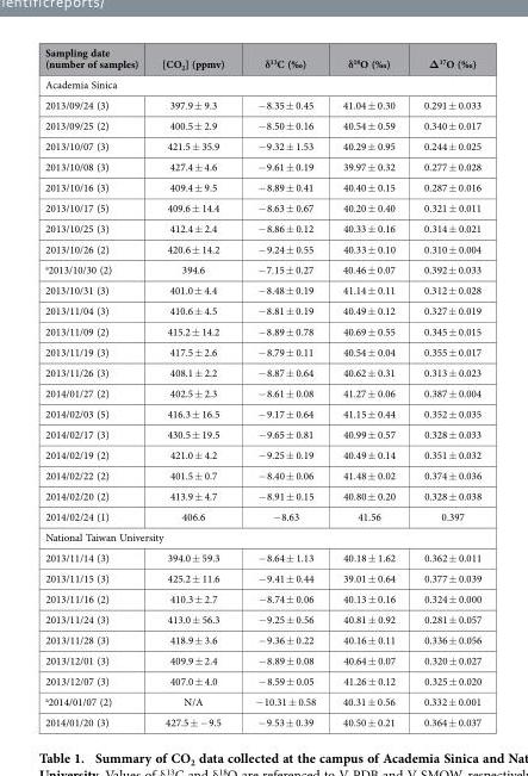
<table><thead><tr><td>Sampling date (number of samples)</td><td>[CO<sub>2</sub>] (ppmv)</td><td>δ<sup>13</sup>C (‰)</td><td>δ<sup>18</sup>O (‰)</td><td>Δ<sup>17</sup>O (‰)</td></tr></thead><tbody><tr><td colspan="5">Academia Sinica</td></tr><tr><td>2013/09/24 (3)</td><td>397.9 ± 9.3</td><td>− 8.35 ± 0.45</td><td>41.04 ± 0.30</td><td>0.291 ± 0.033</td></tr><tr><td>2013/09/25 (2)</td><td>400.5 ± 2.9</td><td>− 8.50 ± 0.16</td><td>40.54 ± 0.59</td><td>0.340 ± 0.017</td></tr><tr><td>2013/10/07 (3)</td><td>421.5 ± 35.9</td><td>− 9.32 ± 1.53</td><td>40.29 ± 0.95</td><td>0.244 ± 0.025</td></tr><tr><td>2013/10/08 (3)</td><td>427.4 ± 4.6</td><td>− 9.61 ± 0.19</td><td>39.97 ± 0.32</td><td>0.277 ± 0.028</td></tr><tr><td>2013/10/16 (3)</td><td>409.4 ± 9.5</td><td>− 8.89 ± 0.41</td><td>40.40 ± 0.15</td><td>0.287 ± 0.016</td></tr><tr><td>2013/10/17 (5)</td><td>409.6 ± 14.4</td><td>− 8.63 ± 0.67</td><td>40.20 ± 0.40</td><td>0.321 ± 0.011</td></tr><tr><td>2013/10/25 (3)</td><td>412.4 ± 2.4</td><td>− 8.86 ± 0.12</td><td>40.33 ± 0.16</td><td>0.314 ± 0.021</td></tr><tr><td>2013/10/26 (2)</td><td>420.6 ± 14.2</td><td>− 9.24 ± 0.55</td><td>40.33 ± 0.10</td><td>0.310 ± 0.004</td></tr><tr><td>a2013/10/30 (2)</td><td>394.6</td><td>− 7.15 ± 0.27</td><td>40.46 ± 0.07</td><td>0.392 ± 0.033</td></tr><tr><td>2013/10/31 (3)</td><td>401.0 ± 4.4</td><td>− 8.48 ± 0.19</td><td>41.14 ± 0.11</td><td>0.312 ± 0.028</td></tr><tr><td>2013/11/04 (3)</td><td>410.6 ± 4.5</td><td>− 8.81 ± 0.19</td><td>40.49 ± 0.12</td><td>0.327 ± 0.019</td></tr><tr><td>2013/11/09 (2)</td><td>415.2 ± 14.2</td><td>− 8.89 ± 0.78</td><td>40.69 ± 0.55</td><td>0.345 ± 0.015</td></tr><tr><td>2013/11/19 (3)</td><td>417.5 ± 2.6</td><td>− 8.79 ± 0.11</td><td>40.54 ± 0.04</td><td>0.355 ± 0.017</td></tr><tr><td>2013/11/26 (3)</td><td>408.1 ± 2.2</td><td>− 8.87 ± 0.64</td><td>40.62 ± 0.31</td><td>0.313 ± 0.023</td></tr><tr><td>2014/01/27 (2)</td><td>402.5 ± 2.3</td><td>− 8.61 ± 0.08</td><td>41.27 ± 0.06</td><td>0.387 ± 0.004</td></tr><tr><td>2014/02/03 (5)</td><td>416.3 ± 16.5</td><td>− 9.17 ± 0.64</td><td>41.15 ± 0.44</td><td>0.352 ± 0.035</td></tr><tr><td>2014/02/17 (3)</td><td>430.5 ± 19.5</td><td>− 9.65 ± 0.81</td><td>40.99 ± 0.57</td><td>0.328 ± 0.033</td></tr><tr><td>2014/02/19 (2)</td><td>421.0 ± 4.2</td><td>− 9.25 ± 0.19</td><td>40.49 ± 0.14</td><td>0.351 ± 0.032</td></tr><tr><td>2014/02/22 (2)</td><td>401.5 ± 0.7</td><td>− 8.40 ± 0.06</td><td>41.48 ± 0.02</td><td>0.374 ± 0.036</td></tr><tr><td>2014/02/20 (2)</td><td>413.9 ± 4.7</td><td>− 8.91 ± 0.15</td><td>40.80 ± 0.20</td><td>0.328 ± 0.038</td></tr><tr><td>2014/02/24 (1)</td><td>406.6</td><td>− 8.63</td><td>41.56</td><td>0.397</td></tr><tr><td colspan="5">National Taiwan University</td></tr><tr><td>2013/11/14 (3)</td><td>394.0 ± 59.3</td><td>− 8.64 ± 1.13</td><td>40.18 ± 1.62</td><td>0.362 ± 0.011</td></tr><tr><td>2013/11/15 (3)</td><td>425.2 ± 11.6</td><td>− 9.41 ± 0.44</td><td>39.01 ± 0.64</td><td>0.377 ± 0.039</td></tr><tr><td>2013/11/16 (2)</td><td>410.3 ± 2.7</td><td>− 8.74 ± 0.06</td><td>40.13 ± 0.16</td><td>0.324 ± 0.000</td></tr><tr><td>2013/11/24 (3)</td><td>413.0 ± 56.3</td><td>− 9.25 ± 0.56</td><td>40.81 ± 0.92</td><td>0.281 ± 0.057</td></tr><tr><td>2013/11/28 (3)</td><td>418.9 ± 3.6</td><td>− 9.36 ± 0.22</td><td>40.16 ± 0.11</td><td>0.336 ± 0.056</td></tr><tr><td>2013/12/01 (3)</td><td>409.9 ± 2.4</td><td>− 8.89 ± 0.08</td><td>40.64 ± 0.07</td><td>0.320 ± 0.027</td></tr><tr><td>2013/12/07 (3)</td><td>407.0 ± 4.0</td><td>− 8.59 ± 0.05</td><td>41.26 ± 0.12</td><td>0.325 ± 0.020</td></tr><tr><td>a2014/01/07 (2)</td><td>N/A</td><td>− 10.31 ± 0.58</td><td>40.31 ± 0.56</td><td>0.332 ± 0.001</td></tr><tr><td>2014/01/20 (3)</td><td>427.5 ± − 9.5</td><td>− 9.53 ± 0.39</td><td>40.50 ± 0.21</td><td>0.364 ± 0.037</td></tr></tbody></table>